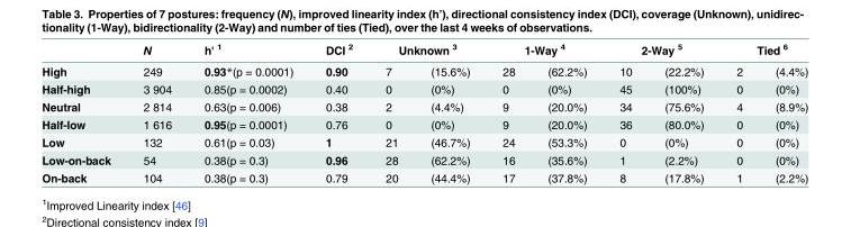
<table><thead><tr><td rowspan="2">High</td><td rowspan="2">N 249</td><td rowspan="2">h&#x27; <sup>1</sup> 0.93*(p = 0.0001)</td><td rowspan="2">DCI <sup>2</sup> 0.90</td><td colspan="2">Unknown <sup>3</sup></td><td colspan="2">1-Way <sup>4</sup></td><td colspan="2">2-Way <sup>5</sup></td><td colspan="2">Tied <sup>6</sup></td></tr><tr><td>7</td><td>(15.6%)</td><td>28</td><td>(62.2%)</td><td>10</td><td>(22.2%)</td><td>2</td><td>(4.4%)</td></tr></thead><tbody><tr><td>Half-high</td><td>3 904</td><td>0.85(p = 0.0002)</td><td>0.40</td><td>0</td><td>(0%)</td><td>0</td><td>(0%)</td><td>45</td><td>(100%)</td><td>0</td><td>(0%)</td></tr><tr><td>Neutral</td><td>2 814</td><td>0.63(p = 0.006)</td><td>0.38</td><td>2</td><td>(4.4%)</td><td>9</td><td>(20.0%)</td><td>34</td><td>(75.6%)</td><td>4</td><td>(8.9%)</td></tr><tr><td>Half-low</td><td>1 616</td><td>0.95(p = 0.0001)</td><td>0.76</td><td>0</td><td>(0%)</td><td>9</td><td>(20.0%)</td><td>36</td><td>(80.0%)</td><td>0</td><td>(0%)</td></tr><tr><td>Low</td><td>132</td><td>0.61(p = 0.03)</td><td>1</td><td>21</td><td>(46.7%)</td><td>24</td><td>(53.3%)</td><td>0</td><td>(0%)</td><td>0</td><td>(0%)</td></tr><tr><td>Low-on-back</td><td>54</td><td>0.38(p = 0.3)</td><td>0.96</td><td>28</td><td>(62.2%)</td><td>16</td><td>(35.6%)</td><td>1</td><td>(2.2%)</td><td>0</td><td>(0%)</td></tr><tr><td>On-back</td><td>104</td><td>0.38(p = 0.3)</td><td>0.79</td><td>20</td><td>(44.4%)</td><td>17</td><td>(37.8%)</td><td>8</td><td>(17.8%)</td><td>1</td><td>(2.2%)</td></tr></tbody></table>